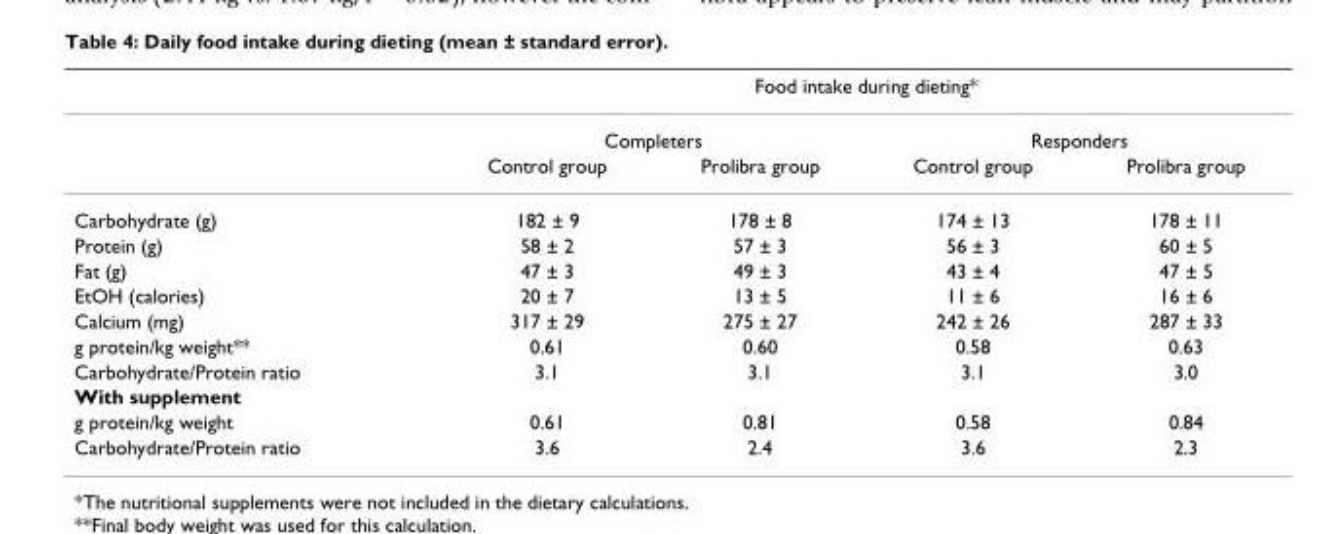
<table><thead><tr><td rowspan="3"></td><td colspan="4">Food intake during dieting*</td></tr><tr><td colspan="2">Completers</td><td colspan="2">Responders</td></tr><tr><td>Control group</td><td>Prolibra group</td><td>Control group</td><td>Prolibra group</td></tr></thead><tbody><tr><td>Carbohydrate (g)</td><td>182 ± 9</td><td>178 ± 8</td><td>174 ± 13</td><td>178 ± 11</td></tr><tr><td>Protein (g)</td><td>58 ± 2</td><td>57 ± 3</td><td>56 ± 3</td><td>60 ± 5</td></tr><tr><td>Fat (g)</td><td>47 ± 3</td><td>49 ± 3</td><td>43 ± 4</td><td>47 ± 5</td></tr><tr><td>EtOH (calories)</td><td>20 ± 7</td><td>13 ± 5</td><td>11 ± 6</td><td>16 ± 6</td></tr><tr><td>Calcium (mg)</td><td>317 ± 29</td><td>275 ± 27</td><td>242 ± 26</td><td>287 ± 33</td></tr><tr><td>g protein/kg weight**</td><td>0.61</td><td>0.60</td><td>0.58</td><td>0.63</td></tr><tr><td>Carbohydrate/Protein ratio</td><td>3.1</td><td>3.1</td><td>3.1</td><td>3.0</td></tr><tr><td colspan="5">With supplement</td></tr><tr><td>g protein/kg weight</td><td>0.61</td><td>0.81</td><td>0.58</td><td>0.84</td></tr><tr><td>Carbohydrate/Protein ratio</td><td>3.6</td><td>2.4</td><td>3.6</td><td>2.3</td></tr></tbody></table>